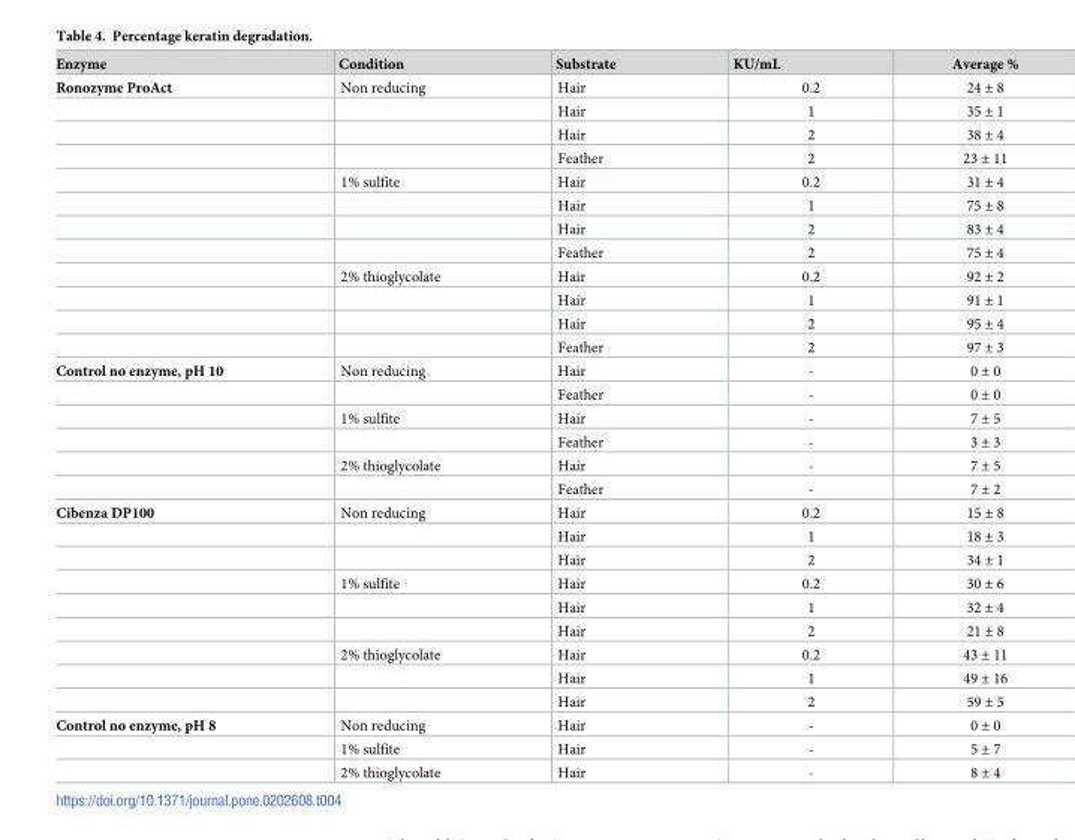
<table><thead><tr><td>Enzyme</td><td>Condition</td><td>Substrate</td><td>KU/mL</td><td>Average %</td></tr></thead><tbody><tr><td rowspan="12">Ronozyme ProAct</td><td>Non reducing</td><td>Hair</td><td>0.2</td><td>24 ± 8</td></tr><tr><td></td><td>Hair</td><td>1</td><td>35 ± 1</td></tr><tr><td></td><td>Hair</td><td>2</td><td>38 ± 4</td></tr><tr><td></td><td>Feather</td><td>2</td><td>23 ± 11</td></tr><tr><td>1% sulfite</td><td>Hair</td><td>0.2</td><td>31 ± 4</td></tr><tr><td></td><td>Hair</td><td>1</td><td>75 ± 8</td></tr><tr><td></td><td>Hair</td><td>2</td><td>83 ± 4</td></tr><tr><td></td><td>Feather</td><td>2</td><td>75 ± 4</td></tr><tr><td>2% thioglycolate</td><td>Hair</td><td>0.2</td><td>92 ± 2</td></tr><tr><td></td><td>Hair</td><td>1</td><td>91 ± 1</td></tr><tr><td></td><td>Hair</td><td>2</td><td>95 ± 4</td></tr><tr><td></td><td>Feather</td><td>2</td><td>97 ± 3</td></tr><tr><td rowspan="6">Control no enzyme, pH 10</td><td>Non reducing</td><td>Hair</td><td>-</td><td>0 ± 0</td></tr><tr><td></td><td>Feather</td><td>-</td><td>0 ± 0</td></tr><tr><td>1% sulfite</td><td>Hair</td><td>-</td><td>7 ± 5</td></tr><tr><td></td><td>Feather</td><td>-</td><td>3 ± 3</td></tr><tr><td>2% thioglycolate</td><td>Hair</td><td>-</td><td>7 ± 5</td></tr><tr><td></td><td>Feather</td><td>-</td><td>7 ± 2</td></tr><tr><td rowspan="9">Cibenza DP100</td><td>Non reducing</td><td>Hair</td><td>0.2</td><td>15 ± 8</td></tr><tr><td></td><td>Hair</td><td>1</td><td>18 ± 3</td></tr><tr><td></td><td>Hair</td><td>2</td><td>34 ± 1</td></tr><tr><td>1% sulfite</td><td>Hair</td><td>0.2</td><td>30 ± 6</td></tr><tr><td></td><td>Hair</td><td>1</td><td>32 ± 4</td></tr><tr><td></td><td>Hair</td><td>2</td><td>21 ± 8</td></tr><tr><td>2% thioglycolate</td><td>Hair</td><td>0.2</td><td>43 ± 11</td></tr><tr><td></td><td>Hair</td><td>1</td><td>49 ± 16</td></tr><tr><td></td><td>Hair</td><td>2</td><td>59 ± 5</td></tr><tr><td rowspan="3">Control no enzyme, pH 8</td><td>Non reducing</td><td>Hair</td><td>-</td><td>0 ± 0</td></tr><tr><td>1% sulfite</td><td>Hair</td><td>-</td><td>5 ± 7</td></tr><tr><td>2% thioglycolate</td><td>Hair</td><td>-</td><td>8 ± 4</td></tr></tbody></table>